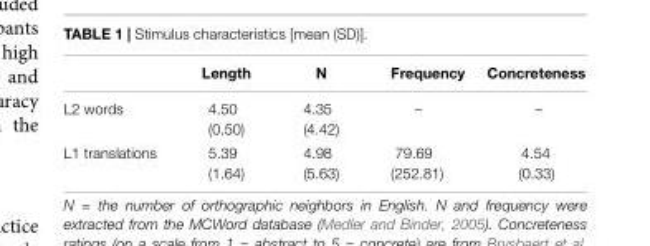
<table><thead><tr><td></td><td>Length</td><td>N</td><td>Frequency</td><td>Concreteness</td></tr></thead><tbody><tr><td>L2 words</td><td>4.50 (0.50)</td><td>4.35 (4.42)</td><td>–</td><td>–</td></tr><tr><td>L1 translations</td><td>5.39 (1.64)</td><td>4.98 (5.63)</td><td>79.69 (252.81)</td><td>4.54 (0.33)</td></tr></tbody></table>